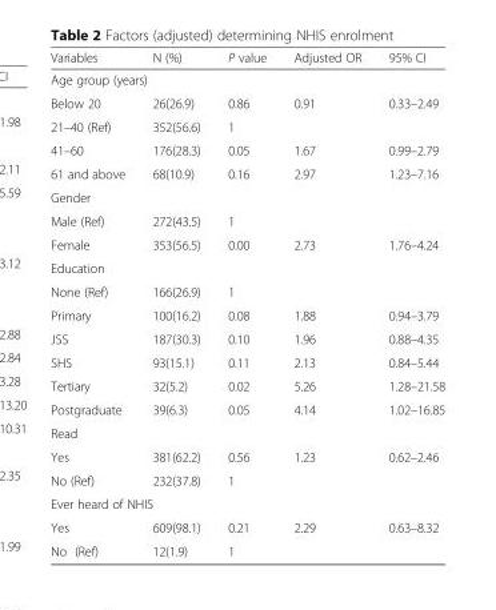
<table><thead><tr><td>Variables</td><td>N (%)</td><td>P value</td><td>Adjusted OR</td><td>95% CI</td></tr></thead><tbody><tr><td colspan="5">Age group (years)</td></tr><tr><td>Below 20</td><td>26(26.9)</td><td>0.86</td><td>0.91</td><td>0.33–2.49</td></tr><tr><td>21–40 (Ref)</td><td>352(56.6)</td><td>1</td><td></td><td></td></tr><tr><td>41–60</td><td>176(28.3)</td><td>0.05</td><td>1.67</td><td>0.99–2.79</td></tr><tr><td>61 and above</td><td>68(10.9)</td><td>0.16</td><td>2.97</td><td>1.23–7.16</td></tr><tr><td colspan="5">Gender</td></tr><tr><td>Male (Ref)</td><td>272(43.5)</td><td>1</td><td></td><td></td></tr><tr><td>Female</td><td>353(56.5)</td><td>0.00</td><td>2.73</td><td>1.76–4.24</td></tr><tr><td colspan="5">Education</td></tr><tr><td>None (Ref)</td><td>166(26.9)</td><td>1</td><td></td><td></td></tr><tr><td>Primary</td><td>100(16.2)</td><td>0.08</td><td>1.88</td><td>0.94–3.79</td></tr><tr><td>JSS</td><td>187(30.3)</td><td>0.10</td><td>1.96</td><td>0.88–4.35</td></tr><tr><td>SHS</td><td>93(15.1)</td><td>0.11</td><td>2.13</td><td>0.84–5.44</td></tr><tr><td>Tertiary</td><td>32(5.2)</td><td>0.02</td><td>5.26</td><td>1.28–21.58</td></tr><tr><td>Postgraduate</td><td>39(6.3)</td><td>0.05</td><td>4.14</td><td>1.02–16.85</td></tr><tr><td colspan="5">Read</td></tr><tr><td>Yes</td><td>381(62.2)</td><td>0.56</td><td>1.23</td><td>0.62–2.46</td></tr><tr><td>No (Ref)</td><td>232(37.8)</td><td>1</td><td></td><td></td></tr><tr><td colspan="5">Ever heard of NHIS</td></tr><tr><td>Yes</td><td>609(98.1)</td><td>0.21</td><td>2.29</td><td>0.63–8.32</td></tr><tr><td>No (Ref)</td><td>12(1.9)</td><td>1</td><td></td><td></td></tr></tbody></table>